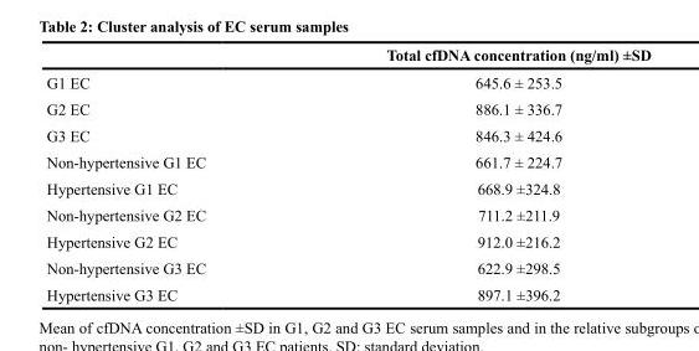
<table><thead><tr><td></td><td>Total cfDNA concentration (ng/ml) ±SD</td></tr></thead><tbody><tr><td>G1 EC</td><td>645.6 ± 253.5</td></tr><tr><td>G2 EC</td><td>886.1 ± 336.7</td></tr><tr><td>G3 EC</td><td>846.3 ± 424.6</td></tr><tr><td>Non-hypertensive G1 EC</td><td>661.7 ± 224.7</td></tr><tr><td>Hypertensive G1 EC</td><td>668.9 ±324.8</td></tr><tr><td>Non-hypertensive G2 EC</td><td>711.2 ±211.9</td></tr><tr><td>Hypertensive G2 EC</td><td>912.0 ±216.2</td></tr><tr><td>Non-hypertensive G3 EC</td><td>622.9 ±298.5</td></tr><tr><td>Hypertensive G3 EC</td><td>897.1 ±396.2</td></tr></tbody></table>